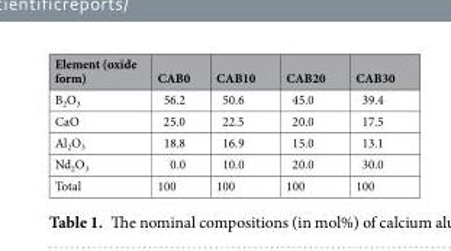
<table><thead><tr><td>Element (oxide form)</td><td>CAB0</td><td>CAB10</td><td>CAB20</td><td>CAB30</td></tr></thead><tbody><tr><td>B<sub>2</sub>O<sub>3</sub></td><td>56.2</td><td>50.6</td><td>45.0</td><td>39.4</td></tr><tr><td>CaO</td><td>25.0</td><td>22.5</td><td>20.0</td><td>17.5</td></tr><tr><td>Al<sub>2</sub>O<sub>3</sub></td><td>18.8</td><td>16.9</td><td>15.0</td><td>13.1</td></tr><tr><td>Nd<sub>2</sub>O<sub>3</sub></td><td>0.0</td><td>10.0</td><td>20.0</td><td>30.0</td></tr><tr><td>Total</td><td>100</td><td>100</td><td>100</td><td>100</td></tr></tbody></table>